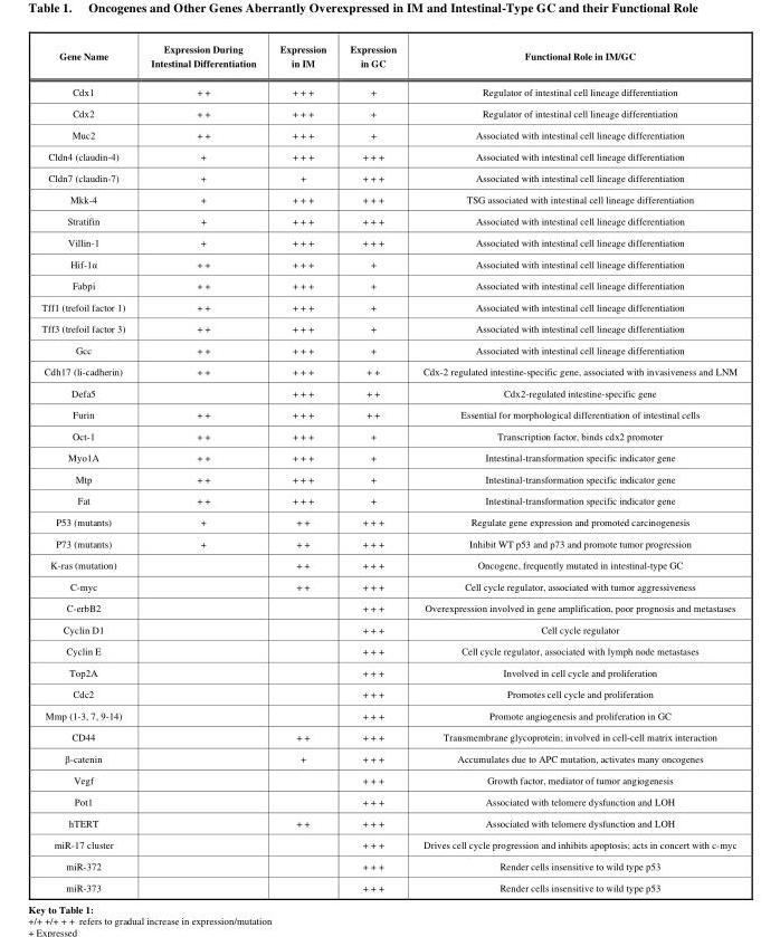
<table><thead><tr><td>Gene Name</td><td>Expression During Intestinal Differentiation</td><td>Expression in IM</td><td>Expression in GC</td><td>Functional Role in IM/GC</td></tr></thead><tbody><tr><td>Cdx1</td><td>+ +</td><td>+ + +</td><td>+</td><td>Regulator of intestinal cell lineage differentiation</td></tr><tr><td>Cdx2</td><td>+ +</td><td>+ + +</td><td>+</td><td>Regulator of intestinal cell lineage differentiation</td></tr><tr><td>Muc2</td><td>+ +</td><td>+ + +</td><td>+</td><td>Associated with intestinal cell lineage differentiation</td></tr><tr><td>Cldn4 (claudin-4)</td><td>+</td><td>+ + +</td><td>+ + +</td><td>Associated with intestinal cell lineage differentiation</td></tr><tr><td>Cldn7 (claudin-7)</td><td>+</td><td>+</td><td>+ + +</td><td>Associated with intestinal cell lineage differentiation</td></tr><tr><td>Mkk-4</td><td>+</td><td>+ + +</td><td>+ + +</td><td>TSG associated with intestinal cell lineage differentiation</td></tr><tr><td>Stratifin</td><td>+</td><td>+ + +</td><td>+ + +</td><td>Associated with intestinal cell lineage differentiation</td></tr><tr><td>Villin-1</td><td>+</td><td>+ + +</td><td>+ + +</td><td>Associated with intestinal cell lineage differentiation</td></tr><tr><td>Hif-1α</td><td>+ +</td><td>+ + +</td><td>+</td><td>Associated with intestinal cell lineage differentiation</td></tr><tr><td>Fabpi</td><td>+ +</td><td>+ + +</td><td>+</td><td>Associated with intestinal cell lineage differentiation</td></tr><tr><td>Tff1 (trefoil factor 1)</td><td>+ +</td><td>+ + +</td><td>+</td><td>Associated with intestinal cell lineage differentiation</td></tr><tr><td>Tff3 (trefoil factor 3)</td><td>+ +</td><td>+ + +</td><td>+</td><td>Associated with intestinal cell lineage differentiation</td></tr><tr><td>Gcc</td><td>+ +</td><td>+ + +</td><td>+</td><td>Associated with intestinal cell lineage differentiation</td></tr><tr><td>Cdh17 (li-cadherin)</td><td>+ +</td><td>+ + +</td><td>+ +</td><td>Cdx-2 regulated intestine-specific gene, associated with invasiveness and LNM</td></tr><tr><td>Defa5</td><td></td><td>+ + +</td><td>+ +</td><td>Cdx2-regulated intestine-specific gene</td></tr><tr><td>Furin</td><td>+ +</td><td>+ + +</td><td>+ +</td><td>Essential for morphological differentiation of intestinal cells</td></tr><tr><td>Oct-1</td><td>+ +</td><td>+ + +</td><td>+</td><td>Transcription factor, binds cdx2 promoter</td></tr><tr><td>Myo1A</td><td>+ +</td><td>+ + +</td><td>+</td><td>Intestinal-transformation specific indicator gene</td></tr><tr><td>Mtp</td><td>+ +</td><td>+ + +</td><td>+</td><td>Intestinal-transformation specific indicator gene</td></tr><tr><td>Fat</td><td>+ +</td><td>+ + +</td><td>+</td><td>Intestinal-transformation specific indicator gene</td></tr><tr><td>P53 (mutants)</td><td>+</td><td>+ +</td><td>+ + +</td><td>Regulate gene expression and promoted carcinogenesis</td></tr><tr><td>P73 (mutants)</td><td>+</td><td>+ +</td><td>+ + +</td><td>Inhibit WT p53 and p73 and promote tumor progression</td></tr><tr><td>K-ras (mutation)</td><td></td><td>+ +</td><td>+ + +</td><td>Oncogene, frequently mutated in intestinal-type GC</td></tr><tr><td>C-myc</td><td></td><td>+ +</td><td>+ + +</td><td>Cell cycle regulator, associated with tumor aggressiveness</td></tr><tr><td>C-erbB2</td><td></td><td></td><td>+ + +</td><td>Overexpression involved in gene amplification, poor prognosis and metastases</td></tr><tr><td>Cyclin D1</td><td></td><td></td><td>+ + +</td><td>Cell cycle regulator</td></tr><tr><td>Cyclin E</td><td></td><td></td><td>+ + +</td><td>Cell cycle regulator, associated with lymph node metastases</td></tr><tr><td>Top2A</td><td></td><td></td><td>+ + +</td><td>Involved in cell cycle and proliferation</td></tr><tr><td>Cdc2</td><td></td><td></td><td>+ + +</td><td>Promotes cell cycle and proliferation</td></tr><tr><td>Mmp (1-3, 7, 9-14)</td><td></td><td></td><td>+ + +</td><td>Promote angiogenesis and proliferation in GC</td></tr><tr><td>CD44</td><td></td><td>+ +</td><td>+ + +</td><td>Transmembrane glycoprotein; involved in cell-cell matrix interaction</td></tr><tr><td>β-catenin</td><td></td><td>+</td><td>+ + +</td><td>Accumulates due to APC mutation, activates many oncogenes</td></tr><tr><td>Vegf</td><td></td><td></td><td>+ + +</td><td>Growth factor, mediator of tumor angiogenesis</td></tr><tr><td>Pot1</td><td></td><td></td><td>+ + +</td><td>Associated with telomere dysfunction and LOH</td></tr><tr><td>hTERT</td><td></td><td>+ +</td><td>+ + +</td><td>Associated with telomere dysfunction and LOH</td></tr><tr><td>miR-17 cluster</td><td></td><td></td><td>+ + +</td><td>Drives cell cycle progression and inhibits apoptosis; acts in concert with c-myc</td></tr><tr><td>miR-372</td><td></td><td></td><td>+ + +</td><td>Render cells insensitive to wild type p53</td></tr><tr><td>miR-373</td><td></td><td></td><td>+ + +</td><td>Render cells insensitive to wild type p53</td></tr></tbody></table>